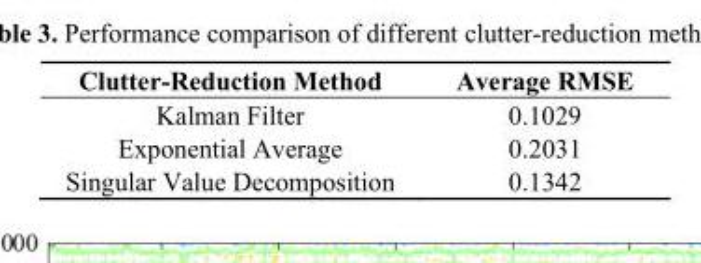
<table><thead><tr><td>Clutter-Reduction Method</td><td>Average RMSE</td></tr></thead><tbody><tr><td>Kalman Filter</td><td>0.1029</td></tr><tr><td>Exponential Average</td><td>0.2031</td></tr><tr><td>Singular Value Decomposition</td><td>0.1342</td></tr></tbody></table>